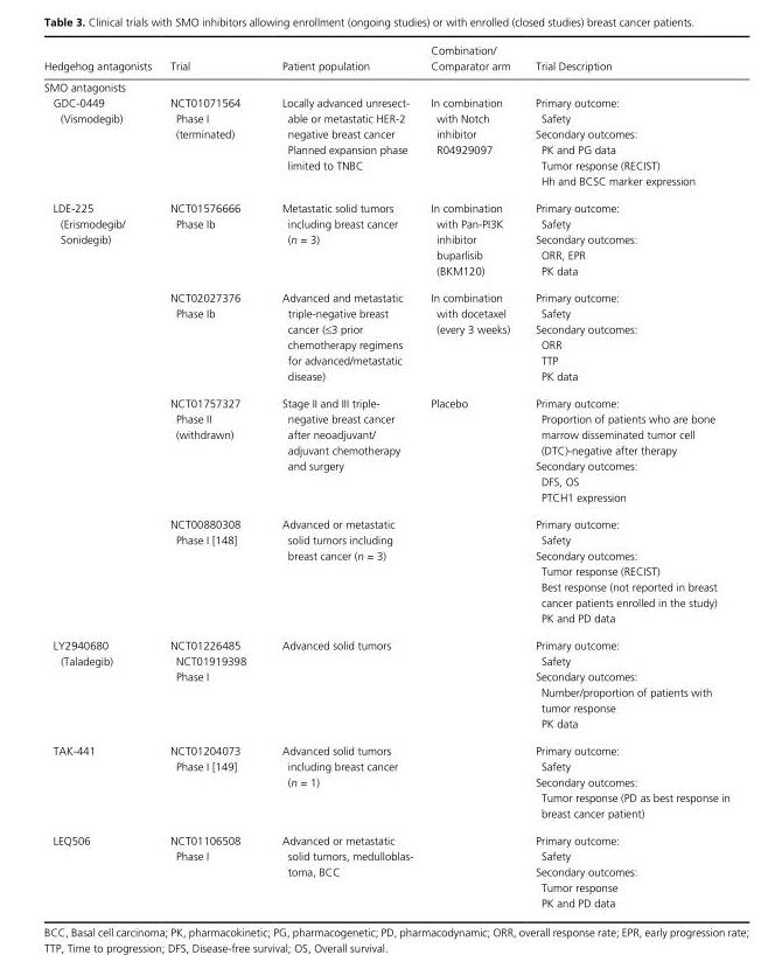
<table><thead><tr><td>Hedgehog antagonists</td><td>Trial</td><td>Patient population</td><td>Combination/ Comparator arm</td><td>Trial Description</td></tr></thead><tbody><tr><td colspan="5">SMO antagonists</td></tr><tr><td>GDC- 0449 (Vismodegib)</td><td>NCT01071564 Phase I (terminated)</td><td>Locally advanced unresect- able or metastatic HER- 2 negative breast cancer Planned expansion phase limited to TNBC</td><td>In combination with Notch inhibitor R04929097</td><td>Primary outcome: Safety Secondary outcomes: PK and PG data Tumor response (RECIST) Hh and BCSC marker expression</td></tr><tr><td rowspan="4">LDE- 225 (Erismodegib/ Sonidegib)</td><td>NCT01576666 Phase Ib</td><td>Metastatic solid tumors including breast cancer (n = 3)</td><td>In combination with Pan- PI3K inhibitor buparlisib (BKM120)</td><td>Primary outcome: Safety Secondary outcomes: ORR, EPR PK data</td></tr><tr><td>NCT02027376 Phase Ib</td><td>Advanced and metastatic triple- negative breast cancer (≤3 prior chemotherapy regimens for advanced/metastatic disease)</td><td>In combination with docetaxel (every 3 weeks)</td><td>Primary outcome: Safety Secondary outcomes: ORR TTP PK data</td></tr><tr><td>NCT01757327 Phase II (withdrawn)</td><td>Stage II and III triple- negative breast cancer after neoadjuvant/ adjuvant chemotherapy and surgery</td><td>Placebo</td><td>Primary outcome: Proportion of patients who are bone marrow disseminated tumor cell (DTC)- negative after therapy Secondary outcomes: DFS, OS PTCH1 expression</td></tr><tr><td>NCT00880308 Phase I [148]</td><td>Advanced or metastatic solid tumors including breast cancer (n = 3)</td><td></td><td>Primary outcome: Safety Secondary outcomes: Tumor response (RECIST) Best response (not reported in breast cancer patients enrolled in the study) PK and PD data</td></tr><tr><td>LY2940680 (Taladegib)</td><td>NCT01226485 NCT01919398 Phase I</td><td>Advanced solid tumors</td><td></td><td>Primary outcome: Safety Secondary outcomes: Number/proportion of patients with tumor response PK data</td></tr><tr><td>TAK- 441</td><td>NCT01204073 Phase I [149]</td><td>Advanced solid tumors including breast cancer (n = 1)</td><td></td><td>Primary outcome: Safety Secondary outcomes: Tumor response (PD as best response in breast cancer patient)</td></tr><tr><td>LEQ506</td><td>NCT01106508 Phase I</td><td>Advanced or metastatic solid tumors, medulloblas- toma, BCC</td><td></td><td>Primary outcome: Safety Secondary outcomes: Tumor response PK and PD data</td></tr></tbody></table>